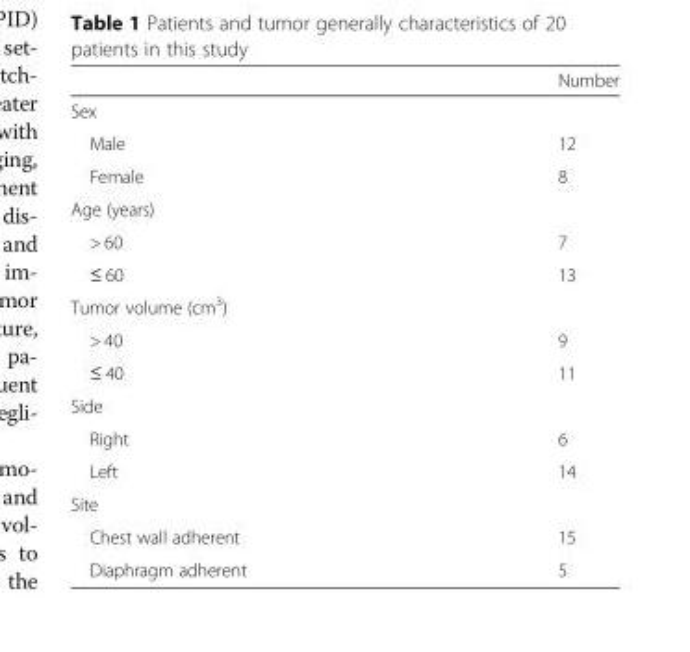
<table><thead><tr><td></td><td>Number</td></tr></thead><tbody><tr><td colspan="2">Sex</td></tr><tr><td>Male</td><td>12</td></tr><tr><td>Female</td><td>8</td></tr><tr><td colspan="2">Age (years)</td></tr><tr><td>&gt; 60</td><td>7</td></tr><tr><td>≤ 60</td><td>13</td></tr><tr><td colspan="2">Tumor volume (cm<sup>3</sup>)</td></tr><tr><td>&gt; 40</td><td>9</td></tr><tr><td>≤ 40</td><td>11</td></tr><tr><td colspan="2">Side</td></tr><tr><td>Right</td><td>6</td></tr><tr><td>Left</td><td>14</td></tr><tr><td colspan="2">Site</td></tr><tr><td>Chest wall adherent</td><td>15</td></tr><tr><td>Diaphragm adherent</td><td>5</td></tr></tbody></table>